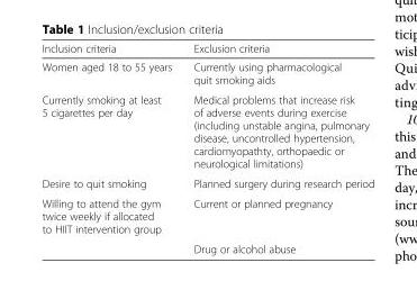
<table><thead><tr><td>Inclusion criteria</td><td>Exclusion criteria</td></tr></thead><tbody><tr><td>Women aged 18 to 55 years</td><td>Currently using pharmacological quit smoking aids</td></tr><tr><td>Currently smoking at least 5 cigarettes per day</td><td>Medical problems that increase risk of adverse events during exercise (including unstable angina, pulmonary disease, uncontrolled hypertension, cardiomyopathty, orthopaedic or neurological limitations)</td></tr><tr><td>Desire to quit smoking</td><td>Planned surgery during research period</td></tr><tr><td rowspan="2">Willing to attend the gym twice weekly if allocated to HIIT intervention group</td><td>Current or planned pregnancy</td></tr><tr><td>Drug or alcohol abuse</td></tr></tbody></table>